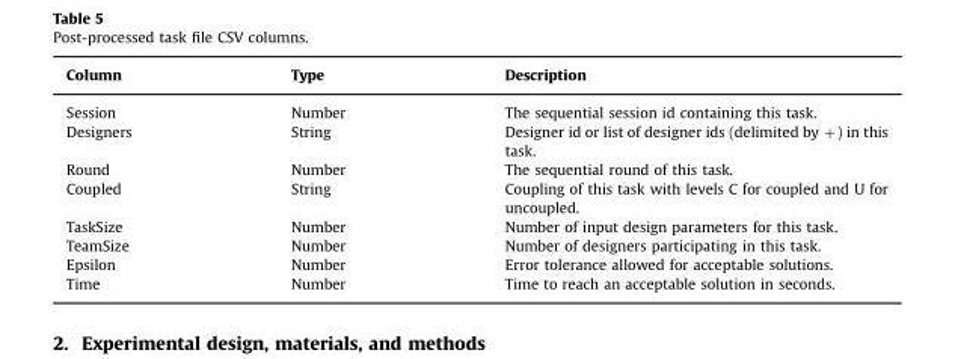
<table><thead><tr><td>Column</td><td>Type</td><td>Description</td></tr></thead><tbody><tr><td>Session</td><td>Number</td><td>The sequential session id containing this task.</td></tr><tr><td>Designers</td><td>String</td><td>Designer id or list of designer ids (delimited by +) in this task.</td></tr><tr><td>Round</td><td>Number</td><td>The sequential round of this task.</td></tr><tr><td>Coupled</td><td>String</td><td>Coupling of this task with levels C for coupled and U for uncoupled.</td></tr><tr><td>TaskSize</td><td>Number</td><td>Number of input design parameters for this task.</td></tr><tr><td>TeamSize</td><td>Number</td><td>Number of designers participating in this task.</td></tr><tr><td>Epsilon</td><td>Number</td><td>Error tolerance allowed for acceptable solutions.</td></tr><tr><td>Time</td><td>Number</td><td>Time to reach an acceptable solution in seconds.</td></tr></tbody></table>